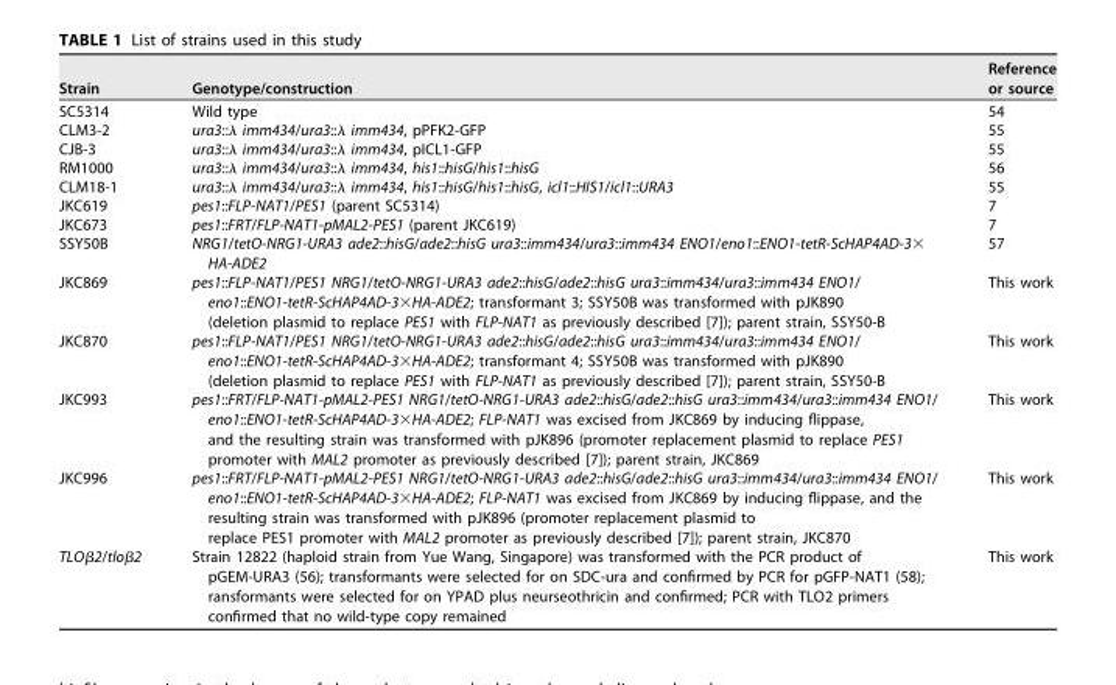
<table><thead><tr><td>Strain</td><td>Genotype/construction</td><td>Reference or source</td></tr></thead><tbody><tr><td>SC5314</td><td>Wild type</td><td>54</td></tr><tr><td>CLM3-2</td><td>ura3::λ imm434/ura3::λ imm434, pPFK2-GFP</td><td>55</td></tr><tr><td>CJB-3</td><td>ura3::λ imm434/ura3::λ imm434, pICL1-GFP</td><td>55</td></tr><tr><td>RM1000</td><td>ura3::λ imm434/ura3::λ imm434, his1::hisG/his1::hisG</td><td>56</td></tr><tr><td>CLM18-1</td><td>ura3::λ imm434/ura3::λ imm434, his1::hisG/his1::hisG, icl1::HIS1/icl1::URA3</td><td>55</td></tr><tr><td>JKC619</td><td>pes1::FLP-NAT1/PES1 (parent SC5314)</td><td>7</td></tr><tr><td>JKC673</td><td>pes1::FRT/FLP-NAT1-pMAL2-PES1 (parent JKC619)</td><td>7</td></tr><tr><td>SSY50B</td><td>NRG1/tetO-NRG1-URA3 ade2::hisG/ade2::hisG ura3::imm434/ura3::imm434 ENO1/eno1::ENO1-tetR-ScHAP4AD-3× HA-ADE2</td><td>57</td></tr><tr><td>JKC869</td><td>pes1::FLP-NAT1/PES1 NRG1/tetO-NRG1-URA3 ade2::hisG/ade2::hisG ura3::imm434/ura3::imm434 ENO1/ eno1::ENO1-tetR-ScHAP4AD-3×HA-ADE2; transformant 3; SSY50B was transformed with pJK890 (deletion plasmid to replace PES1 with FLP-NAT1 as previously described [7]); parent strain, SSY50-B</td><td>This work</td></tr><tr><td>JKC870</td><td>pes1::FLP-NAT1/PES1 NRG1/tetO-NRG1-URA3 ade2::hisG/ade2::hisG ura3::imm434/ura3::imm434 ENO1/ eno1::ENO1-tetR-ScHAP4AD-3×HA-ADE2; transformant 4; SSY50B was transformed with pJK890 (deletion plasmid to replace PES1 with FLP-NAT1 as previously described [7]); parent strain, SSY50-B</td><td>This work</td></tr><tr><td>JKC993</td><td>pes1::FRT/FLP-NAT1-pMAL2-PES1 NRG1/tetO-NRG1-URA3 ade2::hisG/ade2::hisG ura3::imm434/ura3::imm434 ENO1/ eno1::ENO1-tetR-ScHAP4AD-3×HA-ADE2; FLP-NAT1 was excised from JKC869 by inducing flippase, and the resulting strain was transformed with pJK896 (promoter replacement plasmid to replace PES1 promoter with MAL2 promoter as previously described [7]); parent strain, JKC869</td><td>This work</td></tr><tr><td>JKC996</td><td>pes1::FRT/FLP-NAT1-pMAL2-PES1 NRG1/tetO-NRG1-URA3 ade2::hisG/ade2::hisG ura3::imm434/ura3::imm434 ENO1/ eno1::ENO1-tetR-ScHAP4AD-3×HA-ADE2; FLP-NAT1 was excised from JKC869 by inducing flippase, and the resulting strain was transformed with pJK896 (promoter replacement plasmid to replace PES1 promoter with MAL2 promoter as previously described [7]); parent strain, JKC870</td><td>This work</td></tr><tr><td>TLOβ2/tloβ2</td><td>Strain 12822 (haploid strain from Yue Wang, Singapore) was transformed with the PCR product of pGEM-URA3 (56); transformants were selected for on SDC-ura and confirmed by PCR for pGFP-NAT1 (58); ransformants were selected for on YPAD plus neurseothricin and confirmed; PCR with TLO2 primers confirmed that no wild-type copy remained</td><td>This work</td></tr></tbody></table>